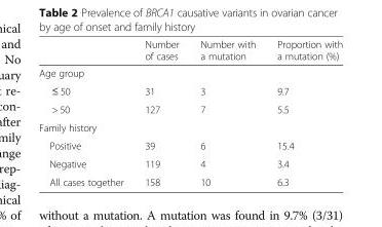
<table><thead><tr><td></td><td>Number of cases</td><td>Number with a mutation</td><td>Proportion with a mutation (%)</td></tr></thead><tbody><tr><td colspan="4">Age group</td></tr><tr><td>≤ 50</td><td>31</td><td>3</td><td>9.7</td></tr><tr><td>&gt; 50</td><td>127</td><td>7</td><td>5.5</td></tr><tr><td colspan="4">Family history</td></tr><tr><td>Positive</td><td>39</td><td>6</td><td>15.4</td></tr><tr><td>Negative</td><td>119</td><td>4</td><td>3.4</td></tr><tr><td>All cases together</td><td>158</td><td>10</td><td>6.3</td></tr></tbody></table>